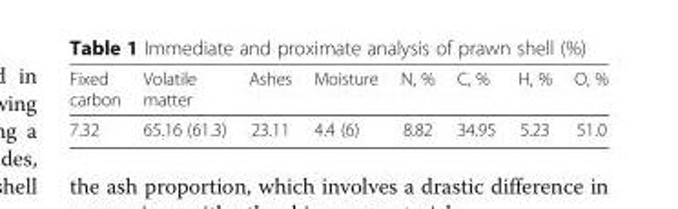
<table><thead><tr><td>Fixed carbon</td><td>Volatile matter</td><td>Ashes</td><td>Moisture</td><td>N, %</td><td>C, %</td><td>H, %</td><td>O, %</td></tr></thead><tbody><tr><td>7.32</td><td>65.16 (61.3)</td><td>23.11</td><td>4.4 (6)</td><td>8.82</td><td>34.95</td><td>5.23</td><td>51.0</td></tr></tbody></table>